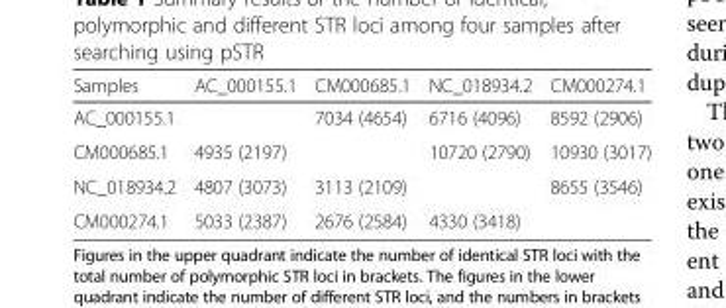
<table><thead><tr><td>Samples</td><td>AC_000155.1</td><td>CM000685.1</td><td>NC_018934.2</td><td>CM000274.1</td></tr></thead><tbody><tr><td>AC_000155.1</td><td></td><td>7034 (4654)</td><td>6716 (4096)</td><td>8592 (2906)</td></tr><tr><td>CM000685.1</td><td>4935 (2197)</td><td></td><td>10720 (2790)</td><td>10930 (3017)</td></tr><tr><td>NC_018934.2</td><td>4807 (3073)</td><td>3113 (2109)</td><td></td><td>8655 (3546)</td></tr><tr><td>CM000274.1</td><td>5033 (2387)</td><td>2676 (2584)</td><td>4330 (3418)</td><td></td></tr></tbody></table>